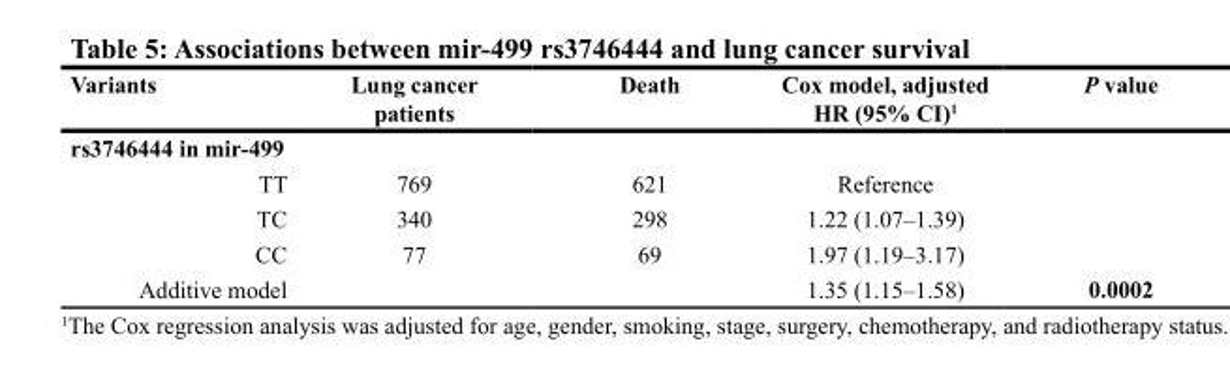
<table><thead><tr><td>Variants</td><td>lung cancer patients</td><td>death</td><td>cox model, adjusted Hr (95% cI)<sup>1</sup></td><td>P value</td></tr></thead><tbody><tr><td colspan="5">rs3746444 in mir-499</td></tr><tr><td>TT</td><td>769</td><td>621</td><td>Reference</td><td></td></tr><tr><td>TC</td><td>340</td><td>298</td><td>1.22 (1.07–1.39)</td><td></td></tr><tr><td>CC</td><td>77</td><td>69</td><td>1.97 (1.19–3.17)</td><td></td></tr><tr><td>Additive model</td><td></td><td></td><td>1.35 (1.15–1.58)</td><td>0.0002</td></tr></tbody></table>